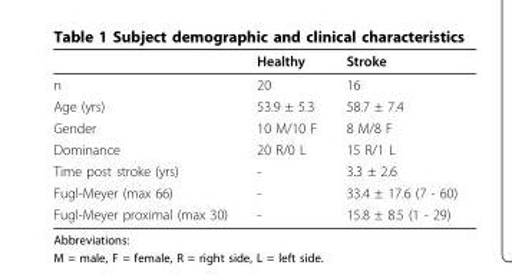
<table><thead><tr><td></td><td>Healthy</td><td>Stroke</td></tr></thead><tbody><tr><td>n</td><td>20</td><td>16</td></tr><tr><td>Age (yrs)</td><td>53.9 ± 5.3</td><td>58.7 ± 7.4</td></tr><tr><td>Gender</td><td>10 M/10 F</td><td>8 M/8 F</td></tr><tr><td>Dominance</td><td>20 R/0 L</td><td>15 R/1 L</td></tr><tr><td>Time post stroke (yrs)</td><td>-</td><td>3.3 ± 2.6</td></tr><tr><td>Fugl-Meyer (max 66)</td><td>-</td><td>33.4 ± 17.6 (7 - 60)</td></tr><tr><td>Fugl-Meyer proximal (max 30)</td><td>-</td><td>15.8 ± 8.5 (1 - 29)</td></tr></tbody></table>